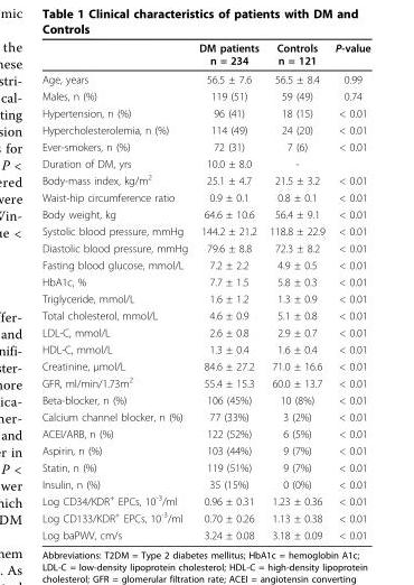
<table><thead><tr><td></td><td>DM patients n = 234</td><td>Controls n = 121</td><td>P-value</td></tr></thead><tbody><tr><td>Age, years</td><td>56.5 ± 7.6</td><td>56.5 ± 8.4</td><td>0.99</td></tr><tr><td>Males, n (%)</td><td>119 (51)</td><td>59 (49)</td><td>0.74</td></tr><tr><td>Hypertension, n (%)</td><td>96 (41)</td><td>18 (15)</td><td>&lt; 0.01</td></tr><tr><td>Hypercholesterolemia, n (%)</td><td>114 (49)</td><td>24 (20)</td><td>&lt; 0.01</td></tr><tr><td>Ever-smokers, n (%)</td><td>72 (31)</td><td>7 (6)</td><td>&lt; 0.01</td></tr><tr><td>Duration of DM, yrs</td><td>10.0 ± 8.0</td><td>-</td><td></td></tr><tr><td>Body-mass index, kg/m<sup>2</sup></td><td>25.1 ± 4.7</td><td>21.5 ± 3.2</td><td>&lt; 0.01</td></tr><tr><td>Waist-hip circumference ratio</td><td>0.9 ± 0.1</td><td>0.8 ± 0.1</td><td>&lt; 0.01</td></tr><tr><td>Body weight, kg</td><td>64.6 ± 10.6</td><td>56.4 ± 9.1</td><td>&lt; 0.01</td></tr><tr><td>Systolic blood pressure, mmHg</td><td>144.2 ± 21.2</td><td>118.8 ± 22.9</td><td>&lt; 0.01</td></tr><tr><td>Diastolic blood pressure, mmHg</td><td>79.6 ± 8.8</td><td>72.3 ± 8.2</td><td>&lt; 0.01</td></tr><tr><td>Fasting blood glucose, mmol/L</td><td>7.2 ± 2.2</td><td>4.9 ± 0.5</td><td>&lt; 0.01</td></tr><tr><td>HbA1c, %</td><td>7.7 ± 1.5</td><td>5.8 ± 0.3</td><td>&lt; 0.01</td></tr><tr><td>Triglyceride, mmol/L</td><td>1.6 ± 1.2</td><td>1.3 ± 0.9</td><td>&lt; 0.01</td></tr><tr><td>Total cholesterol, mmol/L</td><td>4.6 ± 0.9</td><td>5.1 ± 0.8</td><td>&lt; 0.01</td></tr><tr><td>LDL-C, mmol/L</td><td>2.6 ± 0.8</td><td>2.9 ± 0.7</td><td>&lt; 0.01</td></tr><tr><td>HDL-C, mmol/L</td><td>1.3 ± 0.4</td><td>1.6 ± 0.4</td><td>&lt; 0.01</td></tr><tr><td>Creatinine, μmol/L</td><td>84.6 ± 27.2</td><td>71.0 ± 16.6</td><td>&lt; 0.01</td></tr><tr><td>GFR, ml/min/1.73m<sup>2</sup></td><td>55.4 ± 15.3</td><td>60.0 ± 13.7</td><td>&lt; 0.01</td></tr><tr><td>Beta-blocker, n (%)</td><td>106 (45%)</td><td>10 (8%)</td><td>&lt; 0.01</td></tr><tr><td>Calcium channel blocker, n (%)</td><td>77 (33%)</td><td>3 (2%)</td><td>&lt; 0.01</td></tr><tr><td>ACEI/ARB, n (%)</td><td>122 (52%)</td><td>6 (5%)</td><td>&lt; 0.01</td></tr><tr><td>Aspirin, n (%)</td><td>103 (44%)</td><td>9 (7%)</td><td>&lt; 0.01</td></tr><tr><td>Statin, n (%)</td><td>119 (51%)</td><td>9 (7%)</td><td>&lt; 0.01</td></tr><tr><td>Insulin, n (%)</td><td>35 (15%)</td><td>0 (0%)</td><td>&lt; 0.01</td></tr><tr><td>Log CD34/KDR<sup>+</sup> EPCs, 10<sup>-3</sup>/ml</td><td>0.96 ± 0.31</td><td>1.23 ± 0.36</td><td>&lt; 0.01</td></tr><tr><td>Log CD133/KDR<sup>+</sup> EPCs, 10<sup>-3</sup>/ml</td><td>0.70 ± 0.26</td><td>1.13 ± 0.38</td><td>&lt; 0.01</td></tr><tr><td>Log baPWV, cm/s</td><td>3.24 ± 0.08</td><td>3.18 ± 0.09</td><td>&lt; 0.01</td></tr></tbody></table>